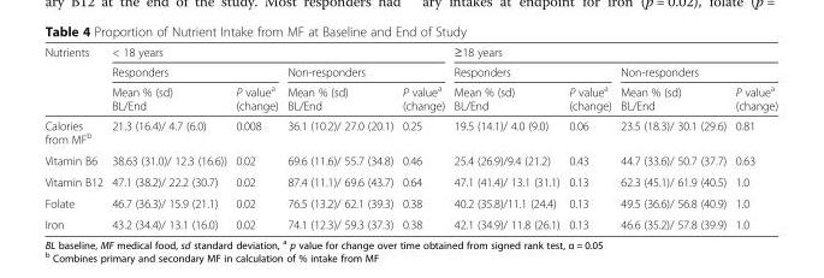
<table><thead><tr><td rowspan="3">Nutrients</td><td colspan="4">&lt; 18 years</td><td colspan="4">≥18 years</td></tr><tr><td colspan="2">Responders</td><td colspan="2">Non-responders</td><td colspan="2">Responders</td><td colspan="2">Non-responders</td></tr><tr><td>Mean % (sd) BL/End</td><td>P value<sup>a</sup> (change)</td><td>Mean % (sd) BL/End</td><td>P value<sup>a</sup> (change)</td><td>Mean % (sd) BL/End</td><td>P value<sup>a</sup> (change)</td><td>Mean % (sd) BL/End</td><td>P value<sup>a</sup> (change)</td></tr></thead><tbody><tr><td>Calories from MF<sup>b</sup></td><td>21.3 (16.4)/ 4.7 (6.0)</td><td>0.008</td><td>36.1 (10.2)/ 27.0 (20.1)</td><td>0.25</td><td>19.5 (14.1)/ 4.0 (9.0)</td><td>0.06</td><td>23.5 (18.3)/ 30.1 (29.6)</td><td>0.81</td></tr><tr><td>Vitamin B6</td><td>38.63 (31.0)/ 12.3 (16.6))</td><td>0.02</td><td>69.6 (11.6)/ 55.7 (34.8)</td><td>0.46</td><td>25.4 (26.9)/9.4 (21.2)</td><td>0.43</td><td>44.7 (33.6)/ 50.7 (37.7)</td><td>0.63</td></tr><tr><td>Vitamin B12</td><td>47.1 (38.2)/ 22.2 (30.7)</td><td>0.02</td><td>87.4 (11.1)/ 69.6 (43.7)</td><td>0.64</td><td>47.1 (41.4)/ 13.1 (31.1)</td><td>0.13</td><td>62.3 (45.1)/ 61.9 (40.5)</td><td>1.0</td></tr><tr><td>Folate</td><td>46.7 (36.3)/ 15.9 (21.1)</td><td>0.02</td><td>76.5 (13.2)/ 62.1 (39.3)</td><td>0.38</td><td>40.2 (35.8)/11.1 (24.4)</td><td>0.13</td><td>49.5 (36.6)/ 56.8 (40.9)</td><td>1.0</td></tr><tr><td>Iron</td><td>43.2 (34.4)/ 13.1 (16.0)</td><td>0.02</td><td>74.1 (12.3)/ 59.3 (37.3)</td><td>0.38</td><td>42.1 (34.9)/ 11.8 (26.1)</td><td>0.13</td><td>46.6 (35.2)/ 57.8 (39.9)</td><td>1.0</td></tr></tbody></table>